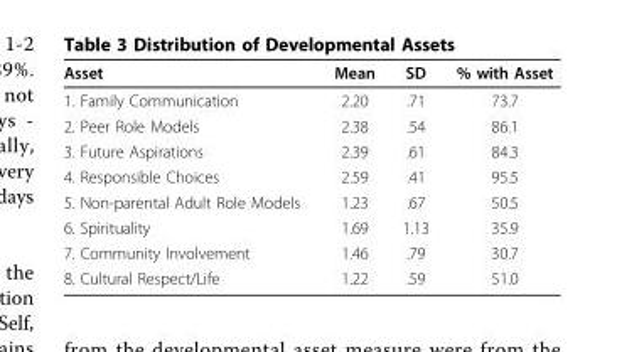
<table><thead><tr><td>Asset</td><td>Mean</td><td>SD</td><td>% with Asset</td></tr></thead><tbody><tr><td>1. Family Communication</td><td>2.20</td><td>.71</td><td>73.7</td></tr><tr><td>2. Peer Role Models</td><td>2.38</td><td>.54</td><td>86.1</td></tr><tr><td>3. Future Aspirations</td><td>2.39</td><td>.61</td><td>84.3</td></tr><tr><td>4. Responsible Choices</td><td>2.59</td><td>.41</td><td>95.5</td></tr><tr><td>5. Non-parental Adult Role Models</td><td>1.23</td><td>.67</td><td>50.5</td></tr><tr><td>6. Spirituality</td><td>1.69</td><td>1.13</td><td>35.9</td></tr><tr><td>7. Community Involvement</td><td>1.46</td><td>.79</td><td>30.7</td></tr><tr><td>8. Cultural Respect/Life</td><td>1.22</td><td>.59</td><td>51.0</td></tr></tbody></table>